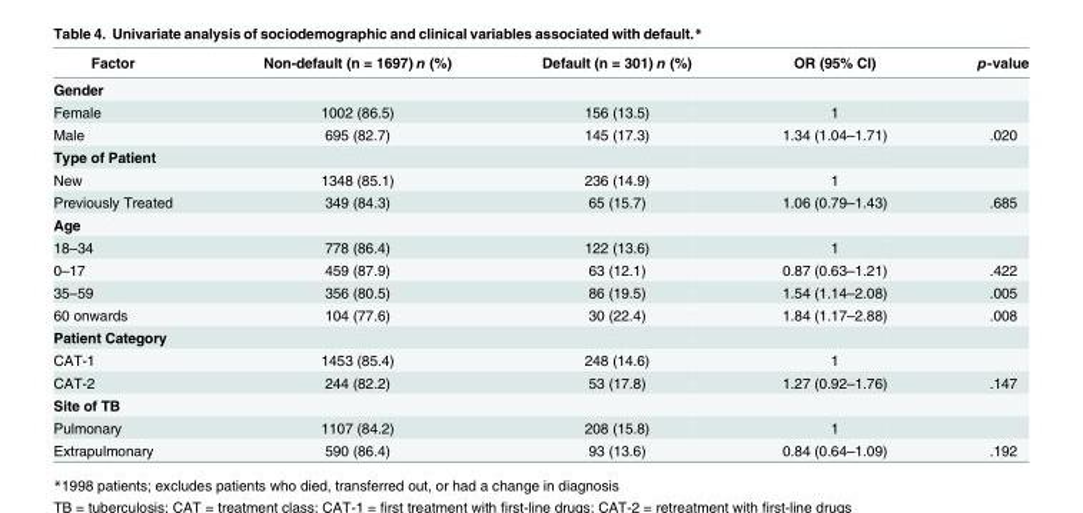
<table><thead><tr><td>Factor</td><td>Non-default (n = 1697) n (%)</td><td>Default (n = 301) n (%)</td><td>OR (95% CI)</td><td>p-value</td></tr></thead><tbody><tr><td colspan="5">Gender</td></tr><tr><td>Female</td><td>1002 (86.5)</td><td>156 (13.5)</td><td>1</td><td></td></tr><tr><td>Male</td><td>695 (82.7)</td><td>145 (17.3)</td><td>1.34 (1.04–1.71)</td><td>.020</td></tr><tr><td colspan="5">Type of Patient</td></tr><tr><td>New</td><td>1348 (85.1)</td><td>236 (14.9)</td><td>1</td><td></td></tr><tr><td>Previously Treated</td><td>349 (84.3)</td><td>65 (15.7)</td><td>1.06 (0.79–1.43)</td><td>.685</td></tr><tr><td colspan="5">Age</td></tr><tr><td>18–34</td><td>778 (86.4)</td><td>122 (13.6)</td><td>1</td><td></td></tr><tr><td>0–17</td><td>459 (87.9)</td><td>63 (12.1)</td><td>0.87 (0.63–1.21)</td><td>.422</td></tr><tr><td>35–59</td><td>356 (80.5)</td><td>86 (19.5)</td><td>1.54 (1.14–2.08)</td><td>.005</td></tr><tr><td>60 onwards</td><td>104 (77.6)</td><td>30 (22.4)</td><td>1.84 (1.17–2.88)</td><td>.008</td></tr><tr><td colspan="5">Patient Category</td></tr><tr><td>CAT-1</td><td>1453 (85.4)</td><td>248 (14.6)</td><td>1</td><td></td></tr><tr><td>CAT-2</td><td>244 (82.2)</td><td>53 (17.8)</td><td>1.27 (0.92–1.76)</td><td>.147</td></tr><tr><td colspan="5">Site of TB</td></tr><tr><td>Pulmonary</td><td>1107 (84.2)</td><td>208 (15.8)</td><td>1</td><td></td></tr><tr><td>Extrapulmonary</td><td>590 (86.4)</td><td>93 (13.6)</td><td>0.84 (0.64–1.09)</td><td>.192</td></tr></tbody></table>